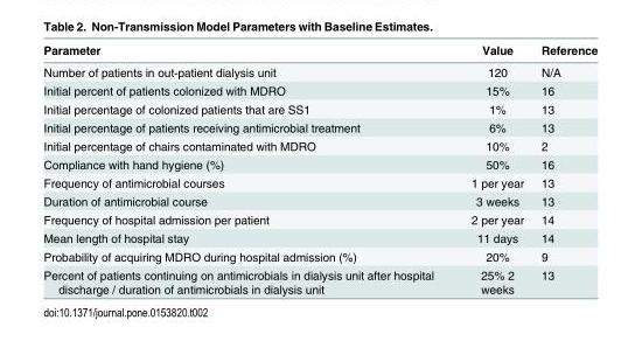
<table><thead><tr><td>Parameter</td><td>Value</td><td>Reference</td></tr></thead><tbody><tr><td>Number of patients in out-patient dialysis unit</td><td>120</td><td>N/A</td></tr><tr><td>Initial percent of patients colonized with MDRO</td><td>15%</td><td>16</td></tr><tr><td>Initial percentage of colonized patients that are SS1</td><td>1%</td><td>13</td></tr><tr><td>Initial percentage of patients receiving antimicrobial treatment</td><td>6%</td><td>13</td></tr><tr><td>Initial percentage of chairs contaminated with MDRO</td><td>10%</td><td>2</td></tr><tr><td>Compliance with hand hygiene (%)</td><td>50%</td><td>16</td></tr><tr><td>Frequency of antimicrobial courses</td><td>1 per year</td><td>13</td></tr><tr><td>Duration of antimicrobial course</td><td>3 weeks</td><td>13</td></tr><tr><td>Frequency of hospital admission per patient</td><td>2 per year</td><td>14</td></tr><tr><td>Mean length of hospital stay</td><td>11 days</td><td>14</td></tr><tr><td>Probability of acquiring MDRO during hospital admission (%)</td><td>20%</td><td>9</td></tr><tr><td>Percent of patients continuing on antimicrobials in dialysis unit after hospital discharge / duration of antimicrobials in dialysis unit</td><td>25% 2 weeks</td><td>13</td></tr></tbody></table>